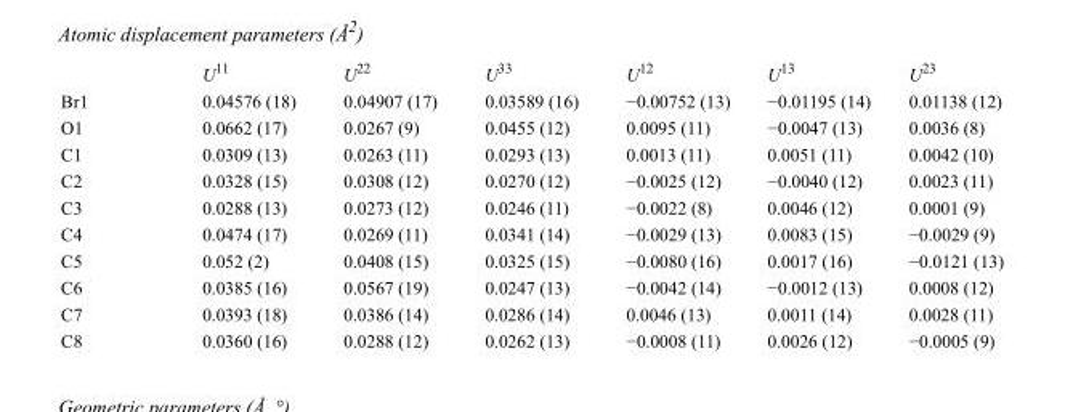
<table><thead><tr><td></td><td>U<sup>11</sup></td><td>U<sup>22</sup></td><td>U<sup>33</sup></td><td>U<sup>12</sup></td><td>U<sup>13</sup></td><td>U<sup>23</sup></td></tr></thead><tbody><tr><td>Br1</td><td>0.04576 (18)</td><td>0.04907 (17)</td><td>0.03589 (16)</td><td>−0.00752 (13)</td><td>−0.01195 (14)</td><td>0.01138 (12)</td></tr><tr><td>O1</td><td>0.0662 (17)</td><td>0.0267 (9)</td><td>0.0455 (12)</td><td>0.0095 (11)</td><td>−0.0047 (13)</td><td>0.0036 (8)</td></tr><tr><td>C1</td><td>0.0309 (13)</td><td>0.0263 (11)</td><td>0.0293 (13)</td><td>0.0013 (11)</td><td>0.0051 (11)</td><td>0.0042 (10)</td></tr><tr><td>C2</td><td>0.0328 (15)</td><td>0.0308 (12)</td><td>0.0270 (12)</td><td>−0.0025 (12)</td><td>−0.0040 (12)</td><td>0.0023 (11)</td></tr><tr><td>C3</td><td>0.0288 (13)</td><td>0.0273 (12)</td><td>0.0246 (11)</td><td>−0.0022 (8)</td><td>0.0046 (12)</td><td>0.0001 (9)</td></tr><tr><td>C4</td><td>0.0474 (17)</td><td>0.0269 (11)</td><td>0.0341 (14)</td><td>−0.0029 (13)</td><td>0.0083 (15)</td><td>−0.0029 (9)</td></tr><tr><td>C5</td><td>0.052 (2)</td><td>0.0408 (15)</td><td>0.0325 (15)</td><td>−0.0080 (16)</td><td>0.0017 (16)</td><td>−0.0121 (13)</td></tr><tr><td>C6</td><td>0.0385 (16)</td><td>0.0567 (19)</td><td>0.0247 (13)</td><td>−0.0042 (14)</td><td>−0.0012 (13)</td><td>0.0008 (12)</td></tr><tr><td>C7</td><td>0.0393 (18)</td><td>0.0386 (14)</td><td>0.0286 (14)</td><td>0.0046 (13)</td><td>0.0011 (14)</td><td>0.0028 (11)</td></tr><tr><td>C8</td><td>0.0360 (16)</td><td>0.0288 (12)</td><td>0.0262 (13)</td><td>−0.0008 (11)</td><td>0.0026 (12)</td><td>−0.0005 (9)</td></tr></tbody></table>